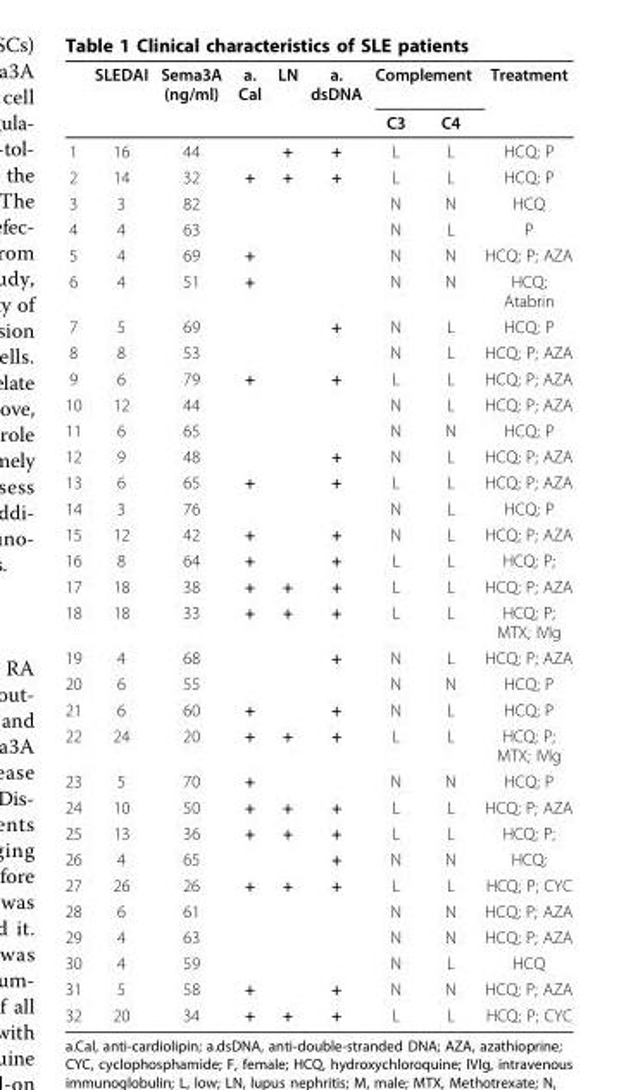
<table><thead><tr><td rowspan="2"></td><td rowspan="2">SLEDAI</td><td rowspan="2">Sema3A (ng/ml)</td><td rowspan="2">a. Cal</td><td rowspan="2">LN</td><td rowspan="2">a. dsDNA</td><td colspan="2">Complement</td><td rowspan="2">Treatment</td></tr><tr><td>C3</td><td>C4</td></tr></thead><tbody><tr><td>1</td><td>16</td><td>44</td><td></td><td>+</td><td>+</td><td>L</td><td>L</td><td>HCQ; P</td></tr><tr><td>2</td><td>14</td><td>32</td><td>+</td><td>+</td><td>+</td><td>L</td><td>L</td><td>HCQ; P</td></tr><tr><td>3</td><td>3</td><td>82</td><td></td><td></td><td></td><td>N</td><td>N</td><td>HCQ</td></tr><tr><td>4</td><td>4</td><td>63</td><td></td><td></td><td></td><td>N</td><td>L</td><td>P</td></tr><tr><td>5</td><td>4</td><td>69</td><td>+</td><td></td><td></td><td>N</td><td>N</td><td>HCQ; P; AZA</td></tr><tr><td>6</td><td>4</td><td>51</td><td>+</td><td></td><td></td><td>N</td><td>N</td><td>HCQ; Atabrin</td></tr><tr><td>7</td><td>5</td><td>69</td><td></td><td></td><td>+</td><td>N</td><td>L</td><td>HCQ; P</td></tr><tr><td>8</td><td>8</td><td>53</td><td></td><td></td><td></td><td>N</td><td>L</td><td>HCQ; P; AZA</td></tr><tr><td>9</td><td>6</td><td>79</td><td>+</td><td></td><td>+</td><td>L</td><td>L</td><td>HCQ; P; AZA</td></tr><tr><td>10</td><td>12</td><td>44</td><td></td><td></td><td></td><td>N</td><td>L</td><td>HCQ; P; AZA</td></tr><tr><td>11</td><td>6</td><td>65</td><td></td><td></td><td></td><td>N</td><td>N</td><td>HCQ; P</td></tr><tr><td>12</td><td>9</td><td>48</td><td></td><td></td><td>+</td><td>N</td><td>L</td><td>HCQ; P; AZA</td></tr><tr><td>13</td><td>6</td><td>65</td><td>+</td><td></td><td>+</td><td>L</td><td>L</td><td>HCQ; P; AZA</td></tr><tr><td>14</td><td>3</td><td>76</td><td></td><td></td><td></td><td>N</td><td>L</td><td>HCQ; P</td></tr><tr><td>15</td><td>12</td><td>42</td><td>+</td><td></td><td>+</td><td>N</td><td>L</td><td>HCQ; P; AZA</td></tr><tr><td>16</td><td>8</td><td>64</td><td>+</td><td></td><td>+</td><td>L</td><td>L</td><td>HCQ; P;</td></tr><tr><td>17</td><td>18</td><td>38</td><td>+</td><td>+</td><td>+</td><td>L</td><td>L</td><td>HCQ; P; AZA</td></tr><tr><td>18</td><td>18</td><td>33</td><td>+</td><td>+</td><td>+</td><td>L</td><td>L</td><td>HCQ; P; MTX; IVIg</td></tr><tr><td>19</td><td>4</td><td>68</td><td></td><td></td><td>+</td><td>N</td><td>L</td><td>HCQ; P; AZA</td></tr><tr><td>20</td><td>6</td><td>55</td><td></td><td></td><td></td><td>N</td><td>N</td><td>HCQ; P</td></tr><tr><td>21</td><td>6</td><td>60</td><td>+</td><td></td><td>+</td><td>N</td><td>L</td><td>HCQ; P</td></tr><tr><td>22</td><td>24</td><td>20</td><td>+</td><td>+</td><td>+</td><td>L</td><td>L</td><td>HCQ; P; MTX; IVIg</td></tr><tr><td>23</td><td>5</td><td>70</td><td>+</td><td></td><td></td><td>N</td><td>N</td><td>HCQ; P</td></tr><tr><td>24</td><td>10</td><td>50</td><td>+</td><td>+</td><td>+</td><td>L</td><td>L</td><td>HCQ; P; AZA</td></tr><tr><td>25</td><td>13</td><td>36</td><td>+</td><td>+</td><td>+</td><td>L</td><td>L</td><td>HCQ; P;</td></tr><tr><td>26</td><td>4</td><td>65</td><td></td><td></td><td>+</td><td>N</td><td>N</td><td>HCQ;</td></tr><tr><td>27</td><td>26</td><td>26</td><td>+</td><td>+</td><td>+</td><td>L</td><td>L</td><td>HCQ; P; CYC</td></tr><tr><td>28</td><td>6</td><td>61</td><td></td><td></td><td></td><td>N</td><td>N</td><td>HCQ; P; AZA</td></tr><tr><td>29</td><td>4</td><td>63</td><td></td><td></td><td></td><td>N</td><td>N</td><td>HCQ; P; AZA</td></tr><tr><td>30</td><td>4</td><td>59</td><td></td><td></td><td></td><td>N</td><td>L</td><td>HCQ</td></tr><tr><td>31</td><td>5</td><td>58</td><td>+</td><td></td><td>+</td><td>N</td><td>N</td><td>HCQ; P; AZA</td></tr><tr><td>32</td><td>20</td><td>34</td><td>+</td><td>+</td><td>+</td><td>L</td><td>L</td><td>HCQ; P; CYC</td></tr></tbody></table>